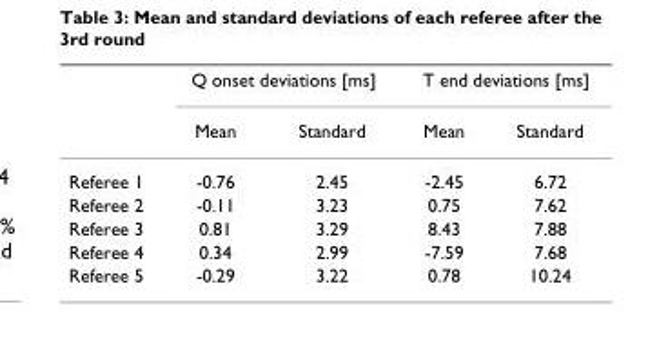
<table><thead><tr><td rowspan="2"></td><td colspan="2">Q onset deviations [ms]</td><td colspan="2">T end deviations [ms]</td></tr><tr><td>Mean</td><td>Standard</td><td>Mean</td><td>Standard</td></tr></thead><tbody><tr><td>Referee 1</td><td>-0.76</td><td>2.45</td><td>-2.45</td><td>6.72</td></tr><tr><td>Referee 2</td><td>-0.11</td><td>3.23</td><td>0.75</td><td>7.62</td></tr><tr><td>Referee 3</td><td>0.81</td><td>3.29</td><td>8.43</td><td>7.88</td></tr><tr><td>Referee 4</td><td>0.34</td><td>2.99</td><td>-7.59</td><td>7.68</td></tr><tr><td>Referee 5</td><td>-0.29</td><td>3.22</td><td>0.78</td><td>10.24</td></tr></tbody></table>